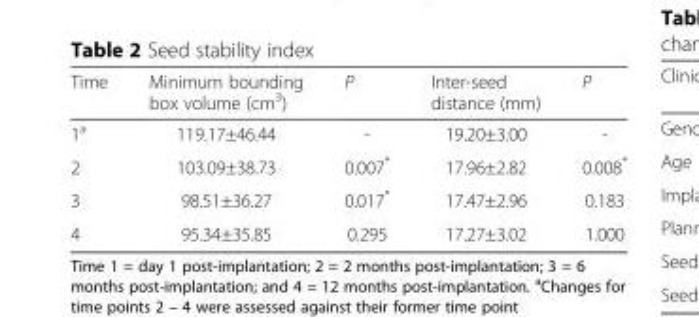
<table><thead><tr><td>Time</td><td>Minimum bounding box volume (cm<sup>3</sup>)</td><td>P</td><td>Inter-seed distance (mm)</td><td>P</td></tr></thead><tbody><tr><td>1<sup>a</sup></td><td>119.17±46.44</td><td>-</td><td>19.20±3.00</td><td>-</td></tr><tr><td>2</td><td>103.09±38.73</td><td>0.007*</td><td>17.96±2.82</td><td>0.008*</td></tr><tr><td>3</td><td>98.51±36.27</td><td>0.017*</td><td>17.47±2.96</td><td>0.183</td></tr><tr><td>4</td><td>95.34±35.85</td><td>0.295</td><td>17.27±3.02</td><td>1.000</td></tr></tbody></table>